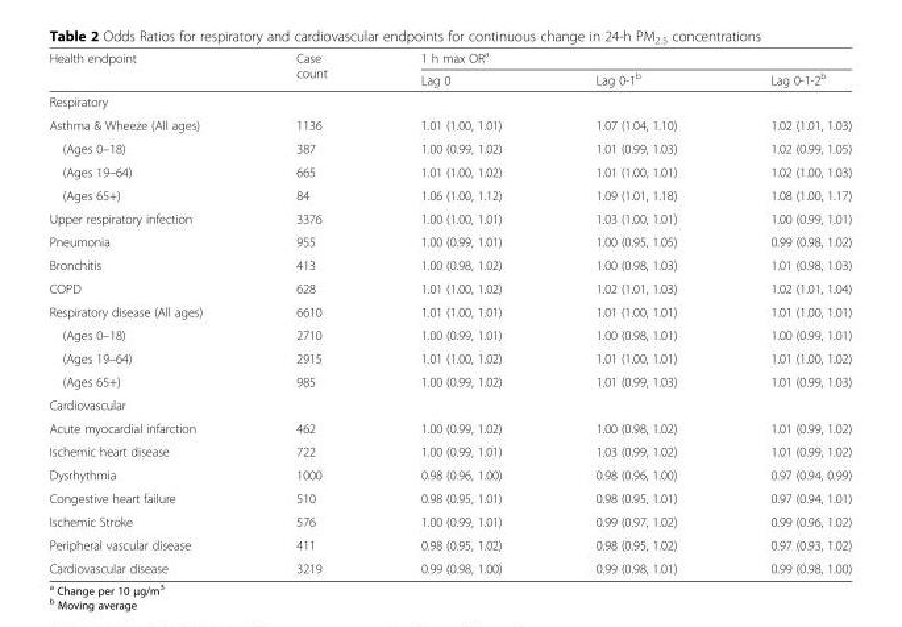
<table><thead><tr><td rowspan="2">Health endpoint</td><td rowspan="2">Case count</td><td colspan="3">1 h max OR<sup>a</sup></td></tr><tr><td>Lag 0</td><td>Lag 0-1<sup>b</sup></td><td>Lag 0-1-2<sup>b</sup></td></tr></thead><tbody><tr><td colspan="5">Respiratory</td></tr><tr><td>Asthma &amp; Wheeze (All ages)</td><td>1136</td><td>1.01 (1.00, 1.01)</td><td>1.07 (1.04, 1.10)</td><td>1.02 (1.01, 1.03)</td></tr><tr><td>(Ages 0–18)</td><td>387</td><td>1.00 (0.99, 1.02)</td><td>1.01 (0.99, 1.03)</td><td>1.02 (0.99, 1.05)</td></tr><tr><td>(Ages 19–64)</td><td>665</td><td>1.01 (1.00, 1.02)</td><td>1.01 (1.00, 1.01)</td><td>1.02 (1.00, 1.03)</td></tr><tr><td>(Ages 65+)</td><td>84</td><td>1.06 (1.00, 1.12)</td><td>1.09 (1.01, 1.18)</td><td>1.08 (1.00, 1.17)</td></tr><tr><td>Upper respiratory infection</td><td>3376</td><td>1.00 (1.00, 1.01)</td><td>1.03 (1.00, 1.01)</td><td>1.00 (0.99, 1.01)</td></tr><tr><td>Pneumonia</td><td>955</td><td>1.00 (0.99, 1.01)</td><td>1.00 (0.95, 1.05)</td><td>0.99 (0.98, 1.02)</td></tr><tr><td>Bronchitis</td><td>413</td><td>1.00 (0.98, 1.02)</td><td>1.00 (0.98, 1.03)</td><td>1.01 (0.98, 1.03)</td></tr><tr><td>COPD</td><td>628</td><td>1.01 (1.00, 1.02)</td><td>1.02 (1.01, 1.03)</td><td>1.02 (1.01, 1.04)</td></tr><tr><td>Respiratory disease (All ages)</td><td>6610</td><td>1.01 (1.00, 1.01)</td><td>1.01 (1.00, 1.01)</td><td>1.01 (1.00, 1.01)</td></tr><tr><td>(Ages 0–18)</td><td>2710</td><td>1.00 (0.99, 1.01)</td><td>1.00 (0.98, 1.01)</td><td>1.00 (0.99, 1.01)</td></tr><tr><td>(Ages 19–64)</td><td>2915</td><td>1.01 (1.00, 1.02)</td><td>1.01 (1.00, 1.01)</td><td>1.01 (1.00, 1.02)</td></tr><tr><td>(Ages 65+)</td><td>985</td><td>1.00 (0.99, 1.02)</td><td>1.01 (0.99, 1.03)</td><td>1.01 (0.99, 1.03)</td></tr><tr><td colspan="5">Cardiovascular</td></tr><tr><td>Acute myocardial infarction</td><td>462</td><td>1.00 (0.99, 1.02)</td><td>1.00 (0.98, 1.02)</td><td>1.01 (0.99, 1.02)</td></tr><tr><td>Ischemic heart disease</td><td>722</td><td>1.00 (0.99, 1.01)</td><td>1.03 (0.99, 1.02)</td><td>1.01 (0.99, 1.02)</td></tr><tr><td>Dysrhythmia</td><td>1000</td><td>0.98 (0.96, 1.00)</td><td>0.98 (0.96, 1.00)</td><td>0.97 (0.94, 0.99)</td></tr><tr><td>Congestive heart failure</td><td>510</td><td>0.98 (0.95, 1.01)</td><td>0.98 (0.95, 1.01)</td><td>0.97 (0.94, 1.01)</td></tr><tr><td>Ischemic Stroke</td><td>576</td><td>1.00 (0.99, 1.01)</td><td>0.99 (0.97, 1.02)</td><td>0.99 (0.96, 1.02)</td></tr><tr><td>Peripheral vascular disease</td><td>411</td><td>0.98 (0.95, 1.02)</td><td>0.98 (0.95, 1.02)</td><td>0.97 (0.93, 1.02)</td></tr><tr><td>Cardiovascular disease</td><td>3219</td><td>0.99 (0.98, 1.00)</td><td>0.99 (0.98, 1.01)</td><td>0.99 (0.98, 1.00)</td></tr></tbody></table>